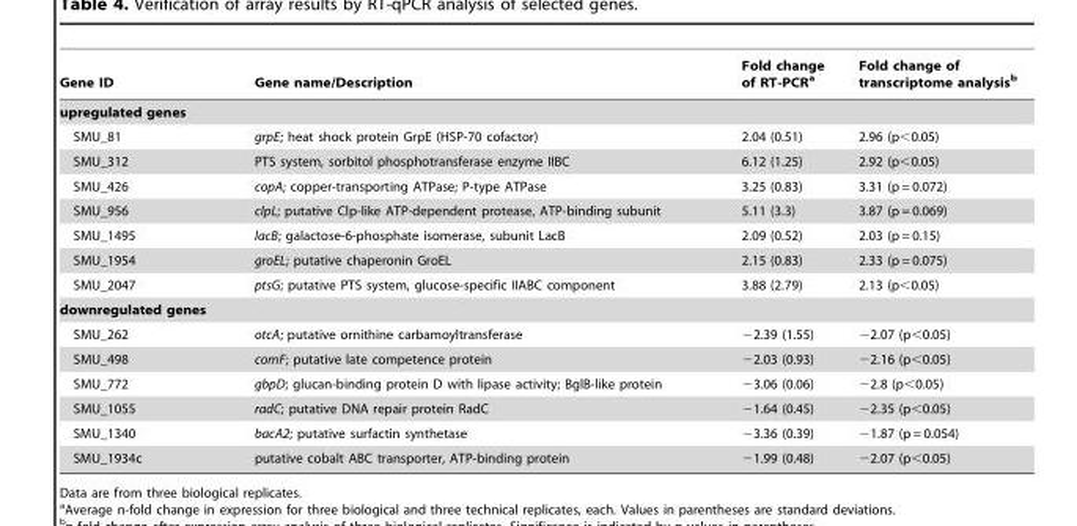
<table><thead><tr><td>Gene ID</td><td>Gene name/Description</td><td>Fold change of RT-PCR<sup>a</sup></td><td>Fold change of transcriptome analysis<sup>b</sup></td></tr></thead><tbody><tr><td colspan="4">upregulated genes</td></tr><tr><td>SMU_81</td><td>grpE; heat shock protein GrpE (HSP-70 cofactor)</td><td>2.04 (0.51)</td><td>2.96 (p&lt;0.05)</td></tr><tr><td>SMU_312</td><td>PTS system, sorbitol phosphotransferase enzyme IIBC</td><td>6.12 (1.25)</td><td>2.92 (p&lt;0.05)</td></tr><tr><td>SMU_426</td><td>copA; copper-transporting ATPase; P-type ATPase</td><td>3.25 (0.83)</td><td>3.31 (p = 0.072)</td></tr><tr><td>SMU_956</td><td>clpL; putative Clp-like ATP-dependent protease, ATP-binding subunit</td><td>5.11 (3.3)</td><td>3.87 (p = 0.069)</td></tr><tr><td>SMU_1495</td><td>lacB; galactose-6-phosphate isomerase, subunit LacB</td><td>2.09 (0.52)</td><td>2.03 (p = 0.15)</td></tr><tr><td>SMU_1954</td><td>groEL; putative chaperonin GroEL</td><td>2.15 (0.83)</td><td>2.33 (p = 0.075)</td></tr><tr><td>SMU_2047</td><td>ptsG; putative PTS system, glucose-specific IIABC component</td><td>3.88 (2.79)</td><td>2.13 (p&lt;0.05)</td></tr><tr><td colspan="4">downregulated genes</td></tr><tr><td>SMU_262</td><td>otcA; putative ornithine carbamoyltransferase</td><td>−2.39 (1.55)</td><td>−2.07 (p&lt;0.05)</td></tr><tr><td>SMU_498</td><td>comF; putative late competence protein</td><td>−2.03 (0.93)</td><td>−2.16 (p&lt;0.05)</td></tr><tr><td>SMU_772</td><td>gbpD; glucan-binding protein D with lipase activity; BglB-like protein</td><td>−3.06 (0.06)</td><td>−2.8 (p&lt;0.05)</td></tr><tr><td>SMU_1055</td><td>radC; putative DNA repair protein RadC</td><td>−1.64 (0.45)</td><td>−2.35 (p&lt;0.05)</td></tr><tr><td>SMU_1340</td><td>bacA2; putative surfactin synthetase</td><td>−3.36 (0.39)</td><td>−1.87 (p = 0.054)</td></tr><tr><td>SMU_1934c</td><td>putative cobalt ABC transporter, ATP-binding protein</td><td>−1.99 (0.48)</td><td>−2.07 (p&lt;0.05)</td></tr></tbody></table>